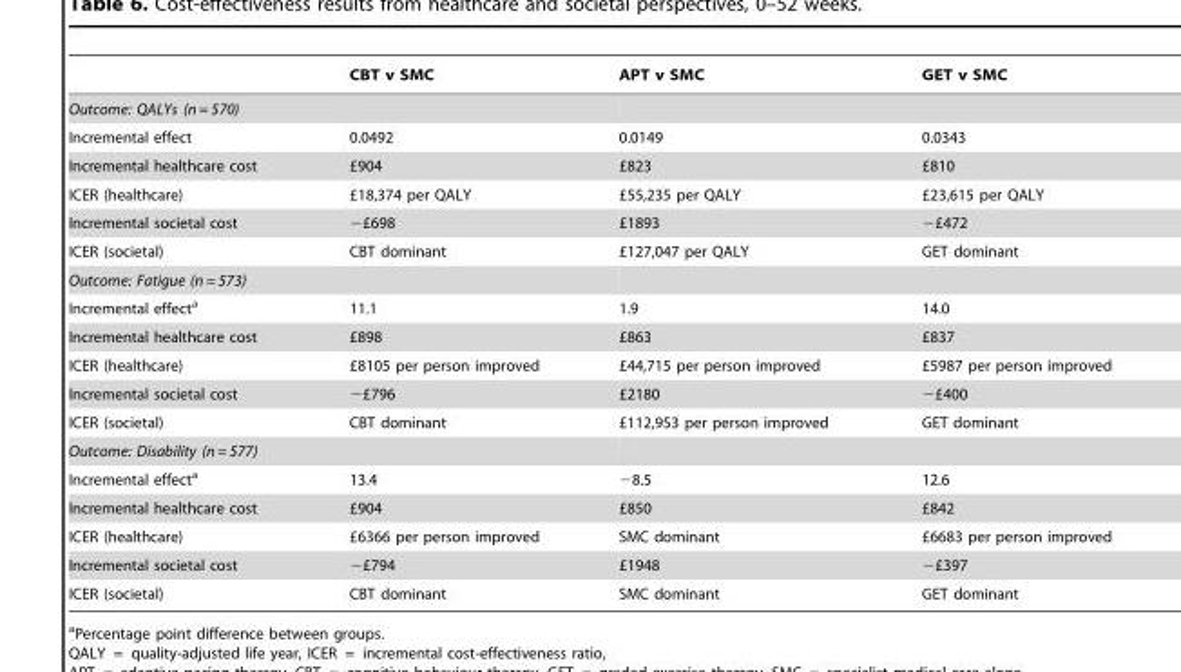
<table><thead><tr><td></td><td>CBT v SMC</td><td>APT v SMC</td><td>GET v SMC</td></tr></thead><tbody><tr><td colspan="4">Outcome: QALYs (n = 570)</td></tr><tr><td>Incremental effect</td><td>0.0492</td><td>0.0149</td><td>0.0343</td></tr><tr><td>Incremental healthcare cost</td><td>£904</td><td>£823</td><td>£810</td></tr><tr><td>ICER (healthcare)</td><td>£18,374 per QALY</td><td>£55,235 per QALY</td><td>£23,615 per QALY</td></tr><tr><td>Incremental societal cost</td><td>−£698</td><td>£1893</td><td>−£472</td></tr><tr><td>ICER (societal)</td><td>CBT dominant</td><td>£127,047 per QALY</td><td>GET dominant</td></tr><tr><td colspan="4">Outcome: Fatigue (n = 573)</td></tr><tr><td>Incremental effect<sup>a</sup></td><td>11.1</td><td>1.9</td><td>14.0</td></tr><tr><td>Incremental healthcare cost</td><td>£898</td><td>£863</td><td>£837</td></tr><tr><td>ICER (healthcare)</td><td>£8105 per person improved</td><td>£44,715 per person improved</td><td>£5987 per person improved</td></tr><tr><td>Incremental societal cost</td><td>−£796</td><td>£2180</td><td>−£400</td></tr><tr><td>ICER (societal)</td><td>CBT dominant</td><td>£112,953 per person improved</td><td>GET dominant</td></tr><tr><td colspan="4">Outcome: Disability (n = 577)</td></tr><tr><td>Incremental effect<sup>a</sup></td><td>13.4</td><td>−8.5</td><td>12.6</td></tr><tr><td>Incremental healthcare cost</td><td>£904</td><td>£850</td><td>£842</td></tr><tr><td>ICER (healthcare)</td><td>£6366 per person improved</td><td>SMC dominant</td><td>£6683 per person improved</td></tr><tr><td>Incremental societal cost</td><td>−£794</td><td>£1948</td><td>−£397</td></tr><tr><td>ICER (societal)</td><td>CBT dominant</td><td>SMC dominant</td><td>GET dominant</td></tr></tbody></table>